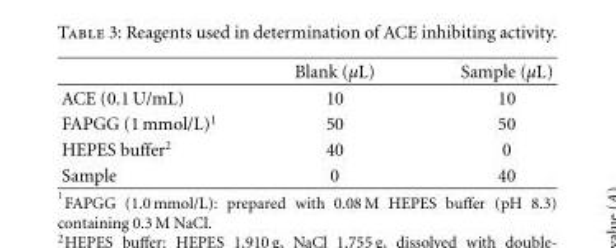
<table><thead><tr><td></td><td>Blank (μL)</td><td>Sample (μL)</td></tr></thead><tbody><tr><td>ACE (0.1 U/mL)</td><td>10</td><td>10</td></tr><tr><td>FAPGG (1 mmol/L)<sup>1</sup></td><td>50</td><td>50</td></tr><tr><td>HEPES buffer<sup>2</sup></td><td>40</td><td>0</td></tr><tr><td>Sample</td><td>0</td><td>40</td></tr></tbody></table>